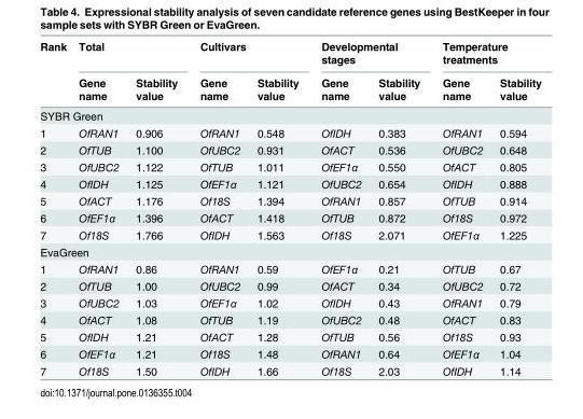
<table><thead><tr><td rowspan="2">Rank</td><td colspan="2">Total</td><td colspan="2">Cultivars</td><td colspan="2">Developmental stages</td><td colspan="2">Temperature treatments</td></tr><tr><td>Gene name</td><td>Stability value</td><td>Gene name</td><td>Stability value</td><td>Gene name</td><td>Stability value</td><td>Gene name</td><td>Stability value</td></tr></thead><tbody><tr><td colspan="9">SYBR Green</td></tr><tr><td>1</td><td>OfRAN1</td><td>0.906</td><td>OfRAN1</td><td>0.548</td><td>OfIDH</td><td>0.383</td><td>OfRAN1</td><td>0.594</td></tr><tr><td>2</td><td>OfTUB</td><td>1.100</td><td>OfUBC2</td><td>0.931</td><td>OfACT</td><td>0.536</td><td>OfUBC2</td><td>0.648</td></tr><tr><td>3</td><td>OfUBC2</td><td>1.122</td><td>OfTUB</td><td>1.011</td><td>OfEF1α</td><td>0.550</td><td>OfACT</td><td>0.805</td></tr><tr><td>4</td><td>OfIDH</td><td>1.125</td><td>OfEF1α</td><td>1.121</td><td>OfUBC2</td><td>0.654</td><td>OfIDH</td><td>0.888</td></tr><tr><td>5</td><td>OfACT</td><td>1.176</td><td>Of18S</td><td>1.394</td><td>OfRAN1</td><td>0.857</td><td>OfTUB</td><td>0.914</td></tr><tr><td>6</td><td>OfEF1α</td><td>1.396</td><td>OfACT</td><td>1.418</td><td>OfTUB</td><td>0.872</td><td>Of18S</td><td>0.972</td></tr><tr><td>7</td><td>Of18S</td><td>1.766</td><td>OfIDH</td><td>1.563</td><td>Of18S</td><td>2.071</td><td>OfEF1α</td><td>1.225</td></tr><tr><td colspan="9">EvaGreen</td></tr><tr><td>1</td><td>OfRAN1</td><td>0.86</td><td>OfRAN1</td><td>0.59</td><td>OfEF1α</td><td>0.21</td><td>OfTUB</td><td>0.67</td></tr><tr><td>2</td><td>OfTUB</td><td>1.00</td><td>OfUBC2</td><td>0.99</td><td>OfACT</td><td>0.34</td><td>OfUBC2</td><td>0.72</td></tr><tr><td>3</td><td>OfUBC2</td><td>1.03</td><td>OfEF1α</td><td>1.02</td><td>OfIDH</td><td>0.43</td><td>OfRAN1</td><td>0.79</td></tr><tr><td>4</td><td>OfACT</td><td>1.08</td><td>OfTUB</td><td>1.19</td><td>OfUBC2</td><td>0.48</td><td>OfACT</td><td>0.83</td></tr><tr><td>5</td><td>OfIDH</td><td>1.21</td><td>OfACT</td><td>1.28</td><td>OfTUB</td><td>0.56</td><td>Of18S</td><td>0.93</td></tr><tr><td>6</td><td>OfEF1α</td><td>1.21</td><td>Of18S</td><td>1.48</td><td>OfRAN1</td><td>0.64</td><td>OfEF1α</td><td>1.04</td></tr><tr><td>7</td><td>Of18S</td><td>1.50</td><td>OfIDH</td><td>1.66</td><td>Of18S</td><td>2.03</td><td>OfIDH</td><td>1.14</td></tr></tbody></table>